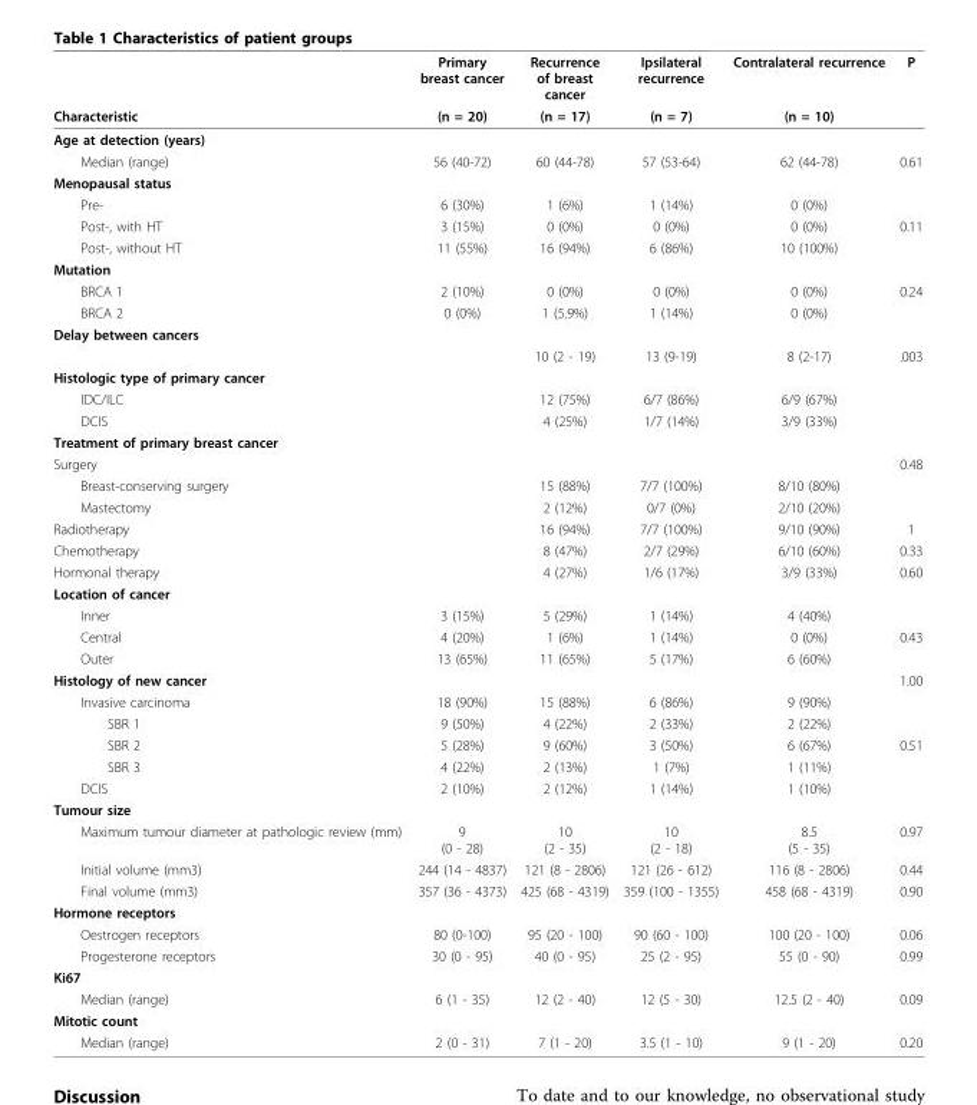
<table><thead><tr><td rowspan="2">Characteristic</td><td rowspan="2">Primary breast cancer (n = 20)</td><td rowspan="2">Recurrence of breast cancer (n = 17)</td><td rowspan="2">Ipsilateral recurrence (n = 7)</td><td rowspan="2">Contralateral recurrence (n = 10)</td><td rowspan="2">P</td></tr><tr></tr></thead><tbody><tr><td colspan="6">Age at detection (years)</td></tr><tr><td>Median (range)</td><td>56 (40-72)</td><td>60 (44-78)</td><td>57 (53-64)</td><td>62 (44-78)</td><td>0.61</td></tr><tr><td colspan="6">Menopausal status</td></tr><tr><td>Pre-</td><td>6 (30%)</td><td>1 (6%)</td><td>1 (14%)</td><td>0 (0%)</td><td></td></tr><tr><td>Post-, with HT</td><td>3 (15%)</td><td>0 (0%)</td><td>0 (0%)</td><td>0 (0%)</td><td>0.11</td></tr><tr><td>Post-, without HT</td><td>11 (55%)</td><td>16 (94%)</td><td>6 (86%)</td><td>10 (100%)</td><td></td></tr><tr><td colspan="6">Mutation</td></tr><tr><td>BRCA 1</td><td>2 (10%)</td><td>0 (0%)</td><td>0 (0%)</td><td>0 (0%)</td><td>0.24</td></tr><tr><td>BRCA 2</td><td>0 (0%)</td><td>1 (5.9%)</td><td>1 (14%)</td><td>0 (0%)</td><td></td></tr><tr><td colspan="6">Delay between cancers</td></tr><tr><td></td><td></td><td>10 (2 - 19)</td><td>13 (9-19)</td><td>8 (2-17)</td><td>.003</td></tr><tr><td colspan="6">Histologic type of primary cancer</td></tr><tr><td>IDC/ILC</td><td></td><td>12 (75%)</td><td>6/7 (86%)</td><td>6/9 (67%)</td><td></td></tr><tr><td>DCIS</td><td></td><td>4 (25%)</td><td>1/7 (14%)</td><td>3/9 (33%)</td><td></td></tr><tr><td colspan="6">Treatment of primary breast cancer</td></tr><tr><td>Surgery</td><td></td><td></td><td></td><td></td><td>0.48</td></tr><tr><td>Breast-conserving surgery</td><td></td><td>15 (88%)</td><td>7/7 (100%)</td><td>8/10 (80%)</td><td></td></tr><tr><td>Mastectomy</td><td></td><td>2 (12%)</td><td>0/7 (0%)</td><td>2/10 (20%)</td><td></td></tr><tr><td>Radiotherapy</td><td></td><td>16 (94%)</td><td>7/7 (100%)</td><td>9/10 (90%)</td><td>1</td></tr><tr><td>Chemotherapy</td><td></td><td>8 (47%)</td><td>2/7 (29%)</td><td>6/10 (60%)</td><td>0.33</td></tr><tr><td>Hormonal therapy</td><td></td><td>4 (27%)</td><td>1/6 (17%)</td><td>3/9 (33%)</td><td>0.60</td></tr><tr><td colspan="6">Location of cancer</td></tr><tr><td>Inner</td><td>3 (15%)</td><td>5 (29%)</td><td>1 (14%)</td><td>4 (40%)</td><td></td></tr><tr><td>Central</td><td>4 (20%)</td><td>1 (6%)</td><td>1 (14%)</td><td>0 (0%)</td><td>0.43</td></tr><tr><td>Outer</td><td>13 (65%)</td><td>11 (65%)</td><td>5 (17%)</td><td>6 (60%)</td><td></td></tr><tr><td colspan="5">Histology of new cancer</td><td>1.00</td></tr><tr><td>Invasive carcinoma</td><td>18 (90%)</td><td>15 (88%)</td><td>6 (86%)</td><td>9 (90%)</td><td></td></tr><tr><td>SBR 1</td><td>9 (50%)</td><td>4 (22%)</td><td>2 (33%)</td><td>2 (22%)</td><td></td></tr><tr><td>SBR 2</td><td>5 (28%)</td><td>9 (60%)</td><td>3 (50%)</td><td>6 (67%)</td><td>0.51</td></tr><tr><td>SBR 3</td><td>4 (22%)</td><td>2 (13%)</td><td>1 (7%)</td><td>1 (11%)</td><td></td></tr><tr><td>DCIS</td><td>2 (10%)</td><td>2 (12%)</td><td>1 (14%)</td><td>1 (10%)</td><td></td></tr><tr><td colspan="6">Tumour size</td></tr><tr><td>Maximum tumour diameter at pathologic review (mm)</td><td>9 (0 - 28)</td><td>10 (2 - 35)</td><td>10 (2 - 18)</td><td>8.5 (5 - 35)</td><td>0.97</td></tr><tr><td>Initial volume (mm3)</td><td>244 (14 - 4837)</td><td>121 (8 - 2806)</td><td>121 (26 - 612)</td><td>116 (8 - 2806)</td><td>0.44</td></tr><tr><td>Final volume (mm3)</td><td>357 (36 - 4373)</td><td>425 (68 - 4319)</td><td>359 (100 - 1355)</td><td>458 (68 - 4319)</td><td>0.90</td></tr><tr><td colspan="6">Hormone receptors</td></tr><tr><td>Oestrogen receptors</td><td>80 (0-100)</td><td>95 (20 - 100)</td><td>90 (60 - 100)</td><td>100 (20 - 100)</td><td>0.06</td></tr><tr><td>Progesterone receptors</td><td>30 (0 - 95)</td><td>40 (0 - 95)</td><td>25 (2 - 95)</td><td>55 (0 - 90)</td><td>0.99</td></tr><tr><td colspan="6">Ki67</td></tr><tr><td>Median (range)</td><td>6 (1 - 35)</td><td>12 (2 - 40)</td><td>12 (5 - 30)</td><td>12.5 (2 - 40)</td><td>0.09</td></tr><tr><td colspan="6">Mitotic count</td></tr><tr><td>Median (range)</td><td>2 (0 - 31)</td><td>7 (1 - 20)</td><td>3.5 (1 - 10)</td><td>9 (1 - 20)</td><td>0.20</td></tr></tbody></table>